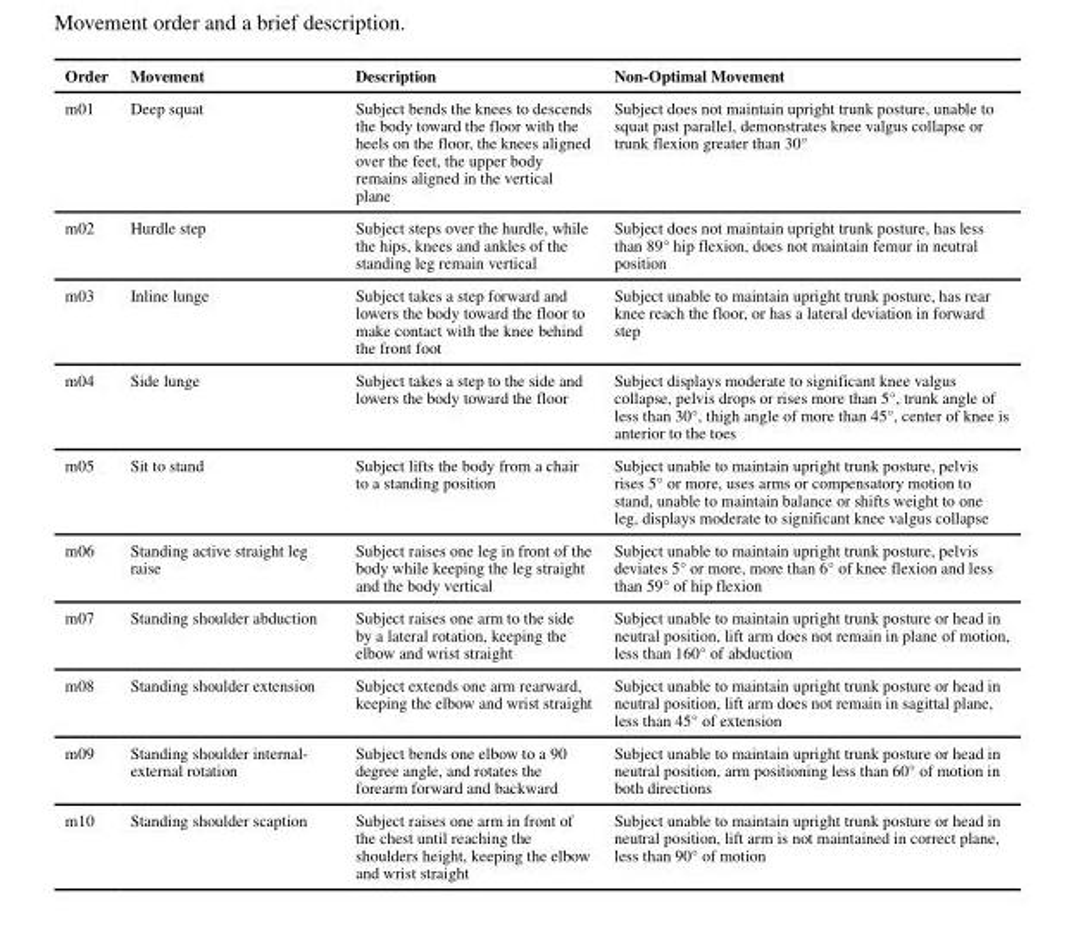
<table><thead><tr><td>Order</td><td>Movement</td><td>Description</td><td>Non-Optimal Movement</td></tr></thead><tbody><tr><td>m01</td><td>Deep squat</td><td>Subject bends the knees to descends the body toward the floor with the heels on the floor, the knees aligned over the feet, the upper body remains aligned in the vertical plane</td><td>Subject does not maintain upright trunk posture, unable to squat past parallel, demonstrates knee valgus collapse or trunk flexion greater than 30°</td></tr><tr><td>m02</td><td>Hurdle step</td><td>Subject steps over the hurdle, while the hips, knees and ankles of the standing leg remain vertical</td><td>Subject does not maintain upright trunk posture, has less than 89° hip flexion, does not maintain femur in neutral position</td></tr><tr><td>m03</td><td>Inline lunge</td><td>Subject takes a step forward and lowers the body toward the floor to make contact with the knee behind the front foot</td><td>Subject unable to maintain upright trunk posture, has rear knee reach the floor, or has a lateral deviation in forward step</td></tr><tr><td>m04</td><td>Side lunge</td><td>Subject takes a step to the side and lowers the body toward the floor</td><td>Subject displays moderate to significant knee valgus collapse, pelvis drops or rises more than 5°, trunk angle of less than 30°, thigh angle of more than 45°, center of knee is anterior to the toes</td></tr><tr><td>m05</td><td>Sit to stand</td><td>Subject lifts the body from a chair to a standing position</td><td>Subject unable to maintain upright trunk posture, pelvis rises 5° or more, uses arms or compensatory motion to stand, unable to maintain balance or shifts weight to one leg, displays moderate to significant knee valgus collapse</td></tr><tr><td>m06</td><td>Standing active straight leg raise</td><td>Subject raises one leg in front of the body while keeping the leg straight and the body vertical</td><td>Subject unable to maintain upright trunk posture, pelvis deviates 5° or more, more than 6° of knee flexion and less than 59° of hip flexion</td></tr><tr><td>m07</td><td>Standing shoulder abduction</td><td>Subject raises one arm to the side by a lateral rotation, keeping the elbow and wrist straight</td><td>Subject unable to maintain upright trunk posture or head in neutral position, lift arm does not remain in plane of motion, less than 160° of abduction</td></tr><tr><td>m08</td><td>Standing shoulder extension</td><td>Subject extends one arm rearward, keeping the elbow and wrist straight</td><td>Subject unable to maintain upright trunk posture or head in neutral position, lift arm does not remain in sagittal plane, less than 45° of extension</td></tr><tr><td>m09</td><td>Standing shoulder internal- external rotation</td><td>Subject bends one elbow to a 90 degree angle, and rotates the forearm forward and backward</td><td>Subject unable to maintain upright trunk posture or head in neutral position, arm positioning less than 60° of motion in both directions</td></tr><tr><td>m10</td><td>Standing shoulder scaption</td><td>Subject raises one arm in front of the chest until reaching the shoulders height, keeping the elbow and wrist straight</td><td>Subject unable to maintain upright trunk posture or head in neutral position, lift arm is not maintained in correct plane, less than 90° of motion</td></tr></tbody></table>